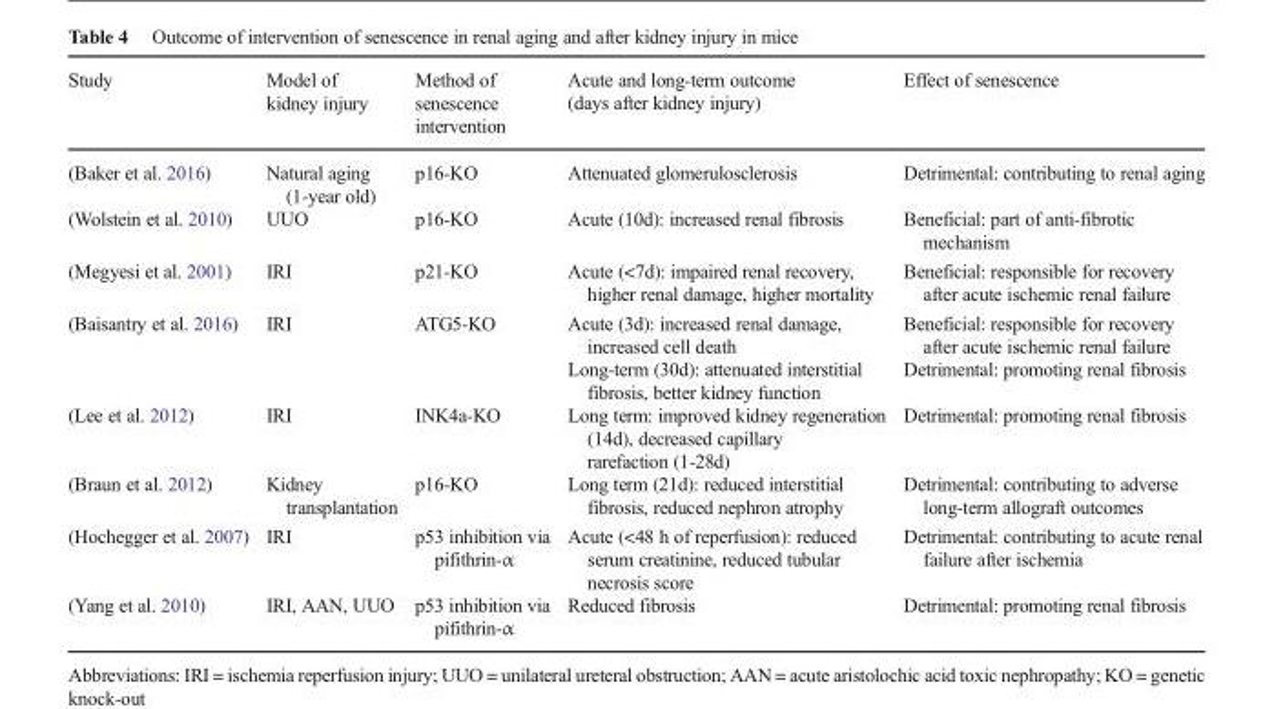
<table><thead><tr><td>Study</td><td>Model of kidney injury</td><td>Method of senescence intervention</td><td>Acute and long-term outcome (days after kidney injury)</td><td>Effect of senescence</td></tr></thead><tbody><tr><td>(Baker et al. 2016)</td><td>Natural aging (1-year old)</td><td>p16-KO</td><td>Attenuated glomerulosclerosis</td><td>Detrimental: contributing to renal aging</td></tr><tr><td>(Wolstein et al. 2010)</td><td>UUO</td><td>p16-KO</td><td>Acute (10d): increased renal fibrosis</td><td>Beneficial: part of anti-fibrotic mechanism</td></tr><tr><td>(Megyesi et al. 2001)</td><td>IRI</td><td>p21-KO</td><td>Acute (&lt;7d): impaired renal recovery, higher renal damage, higher mortality</td><td>Beneficial: responsible for recovery after acute ischemic renal failure</td></tr><tr><td>(Baisantry et al. 2016)</td><td>IRI</td><td>ATG5-KO</td><td>Acute (3d): increased renal damage, increased cell death Long-term (30d): attenuated interstitial fibrosis, better kidney function</td><td>Beneficial: responsible for recovery after acute ischemic renal failure Detrimental: promoting renal fibrosis</td></tr><tr><td>(Lee et al. 2012)</td><td>IRI</td><td>INK4a-KO</td><td>Long term: improved kidney regeneration (14d), decreased capillary rarefaction (1-28d)</td><td>Detrimental: promoting renal fibrosis</td></tr><tr><td>(Braun et al. 2012)</td><td>Kidney transplantation</td><td>p16-KO</td><td>Long term (21d): reduced interstitial fibrosis, reduced nephron atrophy</td><td>Detrimental: contributing to adverse long-term allograft outcomes</td></tr><tr><td>(Hochegger et al. 2007)</td><td>IRI</td><td>p53 inhibition via pifithrin-α</td><td>Acute (&lt;48 h of reperfusion): reduced serum creatinine, reduced tubular necrosis score</td><td>Detrimental: contributing to acute renal failure after ischemia</td></tr><tr><td>(Yang et al. 2010)</td><td>IRI, AAN, UUO</td><td>p53 inhibition via pifithrin-α</td><td>Reduced fibrosis</td><td>Detrimental: promoting renal fibrosis</td></tr></tbody></table>